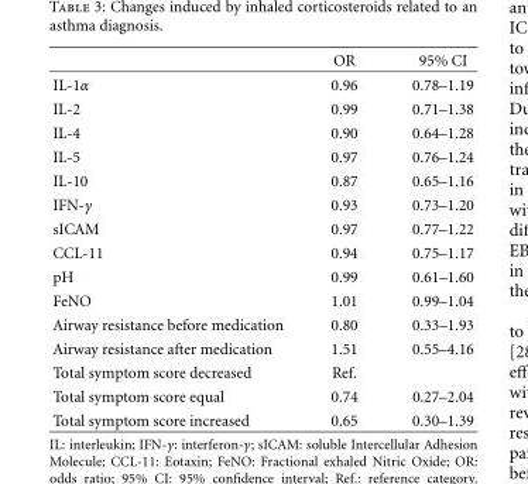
<table><thead><tr><td></td><td>OR</td><td>95% CI</td></tr></thead><tbody><tr><td>IL-1α</td><td>0.96</td><td>0.78–1.19</td></tr><tr><td>IL-2</td><td>0.99</td><td>0.71–1.38</td></tr><tr><td>IL-4</td><td>0.90</td><td>0.64–1.28</td></tr><tr><td>IL-5</td><td>0.97</td><td>0.76–1.24</td></tr><tr><td>IL-10</td><td>0.87</td><td>0.65–1.16</td></tr><tr><td>IFN-γ</td><td>0.93</td><td>0.73–1.20</td></tr><tr><td>sICAM</td><td>0.97</td><td>0.77–1.22</td></tr><tr><td>CCL-11</td><td>0.94</td><td>0.75–1.17</td></tr><tr><td>pH</td><td>0.99</td><td>0.61–1.60</td></tr><tr><td>FeNO</td><td>1.01</td><td>0.99–1.04</td></tr><tr><td>Airway resistance before medication</td><td>0.80</td><td>0.33–1.93</td></tr><tr><td>Airway resistance after medication</td><td>1.51</td><td>0.55–4.16</td></tr><tr><td>Total symptom score decreased</td><td>Ref.</td><td></td></tr><tr><td>Total symptom score equal</td><td>0.74</td><td>0.27–2.04</td></tr><tr><td>Total symptom score increased</td><td>0.65</td><td>0.30–1.39</td></tr></tbody></table>